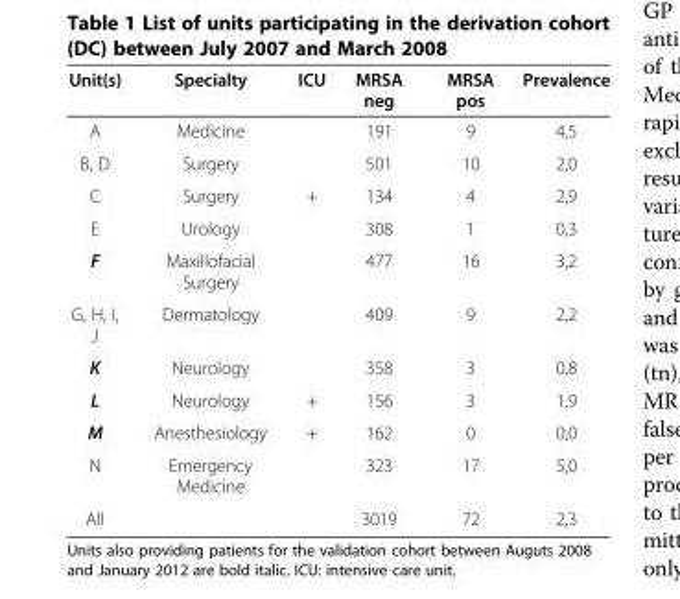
<table><thead><tr><td>Unit(s)</td><td>Specialty</td><td>ICU</td><td>MRSA neg</td><td>MRSA pos</td><td>Prevalence</td></tr></thead><tbody><tr><td>A</td><td>Medicine</td><td></td><td>191</td><td>9</td><td>4,5</td></tr><tr><td>B, D</td><td>Surgery</td><td></td><td>501</td><td>10</td><td>2,0</td></tr><tr><td>C</td><td>Surgery</td><td>+</td><td>134</td><td>4</td><td>2,9</td></tr><tr><td>E</td><td>Urology</td><td></td><td>308</td><td>1</td><td>0,3</td></tr><tr><td>F</td><td>Maxillofacial Surgery</td><td></td><td>477</td><td>16</td><td>3,2</td></tr><tr><td>G, H, I, J</td><td>Dermatology</td><td></td><td>409</td><td>9</td><td>2,2</td></tr><tr><td>K</td><td>Neurology</td><td></td><td>358</td><td>3</td><td>0,8</td></tr><tr><td>L</td><td>Neurology</td><td>+</td><td>156</td><td>3</td><td>1,9</td></tr><tr><td>M</td><td>Anesthesiology</td><td>+</td><td>162</td><td>0</td><td>0,0</td></tr><tr><td>N</td><td>Emergency Medicine</td><td></td><td>323</td><td>17</td><td>5,0</td></tr><tr><td>All</td><td></td><td></td><td>3019</td><td>72</td><td>2,3</td></tr></tbody></table>